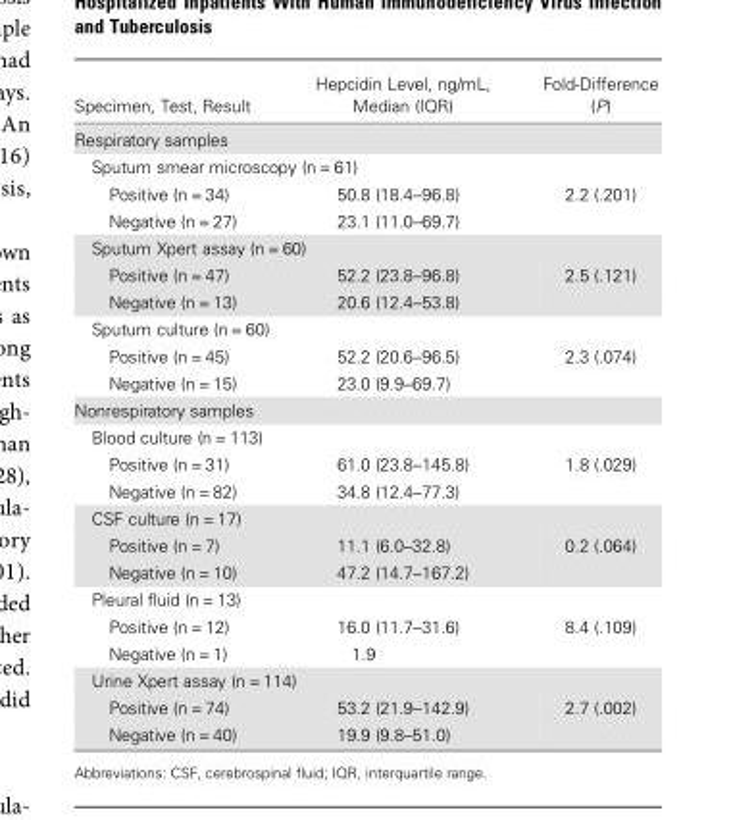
<table><thead><tr><td>Specimen, Test, Result</td><td>Hepcidin Level, ng/mL, Median (IQR)</td><td>Fold-Difference (P)</td></tr></thead><tbody><tr><td colspan="3">Respiratory samples</td></tr><tr><td colspan="3">Sputum smear microscopy (n = 61)</td></tr><tr><td>Positive (n = 34)</td><td>50.8 (18.4–96.8)</td><td rowspan="2">2.2 (.201)</td></tr><tr><td>Negative (n = 27)</td><td>23.1 (11.0–69.7)</td></tr><tr><td colspan="3">Sputum Xpert assay (n = 60)</td></tr><tr><td>Positive (n = 47)</td><td>52.2 (23.8–96.8)</td><td rowspan="2">2.5 (.121)</td></tr><tr><td>Negative (n = 13)</td><td>20.6 (12.4–53.8)</td></tr><tr><td colspan="3">Sputum culture (n = 60)</td></tr><tr><td>Positive (n = 45)</td><td>52.2 (20.6–96.5)</td><td rowspan="2">2.3 (.074)</td></tr><tr><td>Negative (n = 15)</td><td>23.0 (9.9–69.7)</td></tr><tr><td colspan="3">Nonrespiratory samples</td></tr><tr><td colspan="3">Blood culture (n = 113)</td></tr><tr><td>Positive (n = 31)</td><td>61.0 (23.8–145.8)</td><td rowspan="2">1.8 (.029)</td></tr><tr><td>Negative (n = 82)</td><td>34.8 (12.4–77.3)</td></tr><tr><td colspan="3">CSF culture (n = 17)</td></tr><tr><td>Positive (n = 7)</td><td>11.1 (6.0–32.8)</td><td rowspan="2">0.2 (.064)</td></tr><tr><td>Negative (n = 10)</td><td>47.2 (14.7–167.2)</td></tr><tr><td colspan="3">Pleural fluid (n = 13)</td></tr><tr><td>Positive (n = 12)</td><td>16.0 (11.7–31.6)</td><td rowspan="2">8.4 (.109)</td></tr><tr><td>Negative (n = 1)</td><td>1.9</td></tr><tr><td colspan="3">Urine Xpert assay (n = 114)</td></tr><tr><td>Positive (n = 74)</td><td>53.2 (21.9–142.9)</td><td rowspan="2">2.7 (.002)</td></tr><tr><td>Negative (n = 40)</td><td>19.9 (9.8–51.0)</td></tr></tbody></table>